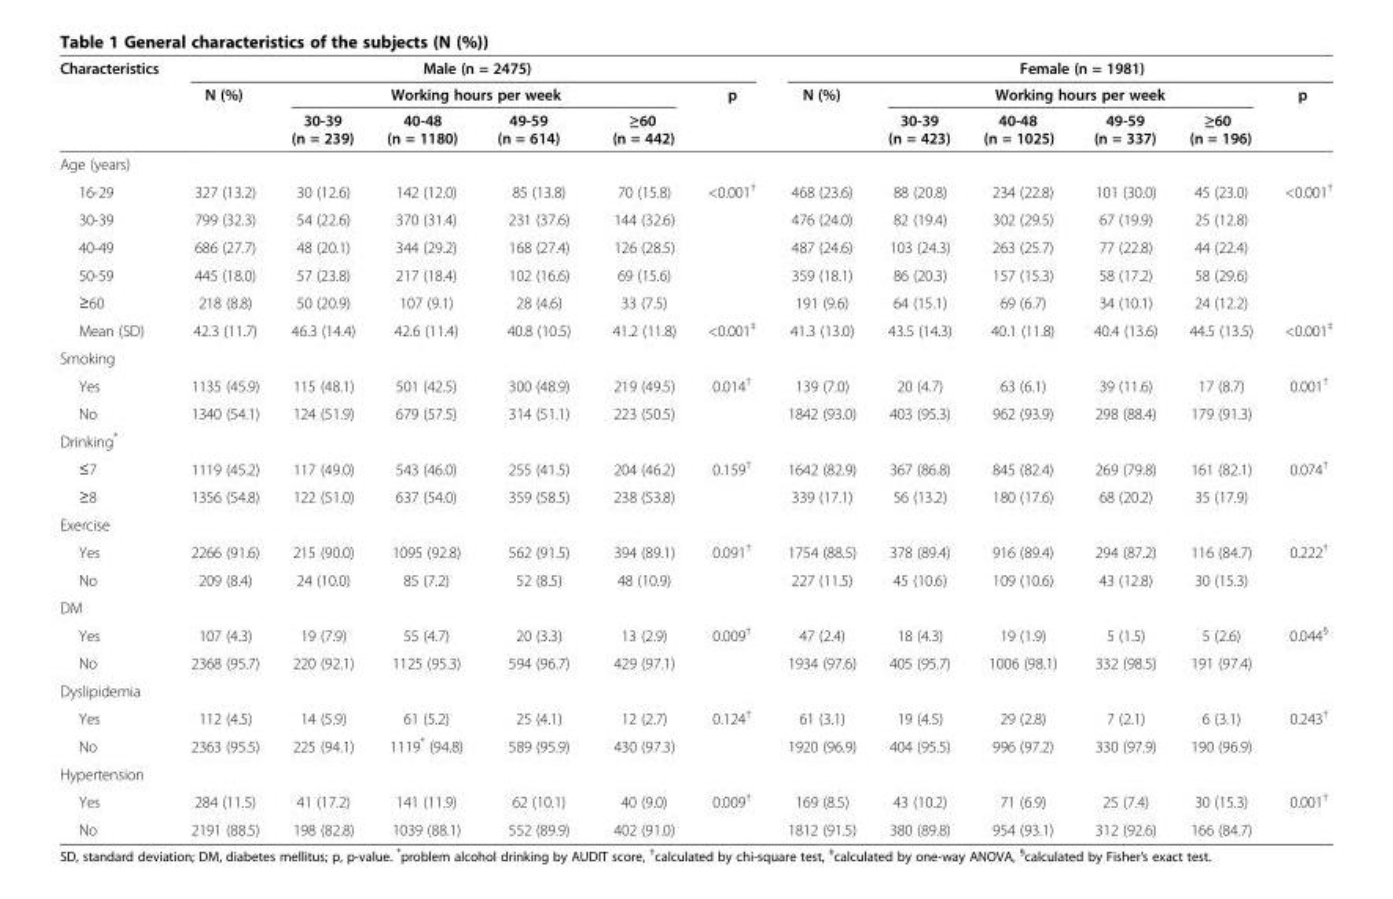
<table><thead><tr><td rowspan="3">Characteristics</td><td colspan="6">Male (n = 2475)</td><td colspan="6">Female (n = 1981)</td></tr><tr><td rowspan="2">N (%)</td><td colspan="4">Working hours per week</td><td rowspan="2">p</td><td rowspan="2">N (%)</td><td colspan="4">Working hours per week</td><td rowspan="2">p</td></tr><tr><td>30-39 (n = 239)</td><td>40-48 (n = 1180)</td><td>49-59 (n = 614)</td><td>≥60 (n = 442)</td><td>30-39 (n = 423)</td><td>40-48 (n = 1025)</td><td>49-59 (n = 337)</td><td>≥60 (n = 196)</td></tr></thead><tbody><tr><td colspan="13">Age (years)</td></tr><tr><td>16-29</td><td>327 (13.2)</td><td>30 (12.6)</td><td>142 (12.0)</td><td>85 (13.8)</td><td>70 (15.8)</td><td>&lt;0.001<sup>†</sup></td><td>468 (23.6)</td><td>88 (20.8)</td><td>234 (22.8)</td><td>101 (30.0)</td><td>45 (23.0)</td><td>&lt;0.001<sup>†</sup></td></tr><tr><td>30-39</td><td>799 (32.3)</td><td>54 (22.6)</td><td>370 (31.4)</td><td>231 (37.6)</td><td>144 (32.6)</td><td></td><td>476 (24.0)</td><td>82 (19.4)</td><td>302 (29.5)</td><td>67 (19.9)</td><td>25 (12.8)</td><td></td></tr><tr><td>40-49</td><td>686 (27.7)</td><td>48 (20.1)</td><td>344 (29.2)</td><td>168 (27.4)</td><td>126 (28.5)</td><td></td><td>487 (24.6)</td><td>103 (24.3)</td><td>263 (25.7)</td><td>77 (22.8)</td><td>44 (22.4)</td><td></td></tr><tr><td>50-59</td><td>445 (18.0)</td><td>57 (23.8)</td><td>217 (18.4)</td><td>102 (16.6)</td><td>69 (15.6)</td><td></td><td>359 (18.1)</td><td>86 (20.3)</td><td>157 (15.3)</td><td>58 (17.2)</td><td>58 (29.6)</td><td></td></tr><tr><td>≥60</td><td>218 (8.8)</td><td>50 (20.9)</td><td>107 (9.1)</td><td>28 (4.6)</td><td>33 (7.5)</td><td></td><td>191 (9.6)</td><td>64 (15.1)</td><td>69 (6.7)</td><td>34 (10.1)</td><td>24 (12.2)</td><td></td></tr><tr><td>Mean (SD)</td><td>42.3 (11.7)</td><td>46.3 (14.4)</td><td>42.6 (11.4)</td><td>40.8 (10.5)</td><td>41.2 (11.8)</td><td>&lt;0.001<sup>‡</sup></td><td>41.3 (13.0)</td><td>43.5 (14.3)</td><td>40.1 (11.8)</td><td>40.4 (13.6)</td><td>44.5 (13.5)</td><td>&lt;0.001<sup>‡</sup></td></tr><tr><td colspan="13">Smoking</td></tr><tr><td>Yes</td><td>1135 (45.9)</td><td>115 (48.1)</td><td>501 (42.5)</td><td>300 (48.9)</td><td>219 (49.5)</td><td>0.014<sup>†</sup></td><td>139 (7.0)</td><td>20 (4.7)</td><td>63 (6.1)</td><td>39 (11.6)</td><td>17 (8.7)</td><td>0.001<sup>†</sup></td></tr><tr><td>No</td><td>1340 (54.1)</td><td>124 (51.9)</td><td>679 (57.5)</td><td>314 (51.1)</td><td>223 (50.5)</td><td></td><td>1842 (93.0)</td><td>403 (95.3)</td><td>962 (93.9)</td><td>298 (88.4)</td><td>179 (91.3)</td><td></td></tr><tr><td colspan="13">Drinking*</td></tr><tr><td>≤7</td><td>1119 (45.2)</td><td>117 (49.0)</td><td>543 (46.0)</td><td>255 (41.5)</td><td>204 (46.2)</td><td>0.159<sup>†</sup></td><td>1642 (82.9)</td><td>367 (86.8)</td><td>845 (82.4)</td><td>269 (79.8)</td><td>161 (82.1)</td><td>0.074<sup>†</sup></td></tr><tr><td>≥8</td><td>1356 (54.8)</td><td>122 (51.0)</td><td>637 (54.0)</td><td>359 (58.5)</td><td>238 (53.8)</td><td></td><td>339 (17.1)</td><td>56 (13.2)</td><td>180 (17.6)</td><td>68 (20.2)</td><td>35 (17.9)</td><td></td></tr><tr><td colspan="13">Exercise</td></tr><tr><td>Yes</td><td>2266 (91.6)</td><td>215 (90.0)</td><td>1095 (92.8)</td><td>562 (91.5)</td><td>394 (89.1)</td><td>0.091<sup>†</sup></td><td>1754 (88.5)</td><td>378 (89.4)</td><td>916 (89.4)</td><td>294 (87.2)</td><td>116 (84.7)</td><td>0.222<sup>†</sup></td></tr><tr><td>No</td><td>209 (8.4)</td><td>24 (10.0)</td><td>85 (7.2)</td><td>52 (8.5)</td><td>48 (10.9)</td><td></td><td>227 (11.5)</td><td>45 (10.6)</td><td>109 (10.6)</td><td>43 (12.8)</td><td>30 (15.3)</td><td></td></tr><tr><td colspan="13">DM</td></tr><tr><td>Yes</td><td>107 (4.3)</td><td>19 (7.9)</td><td>55 (4.7)</td><td>20 (3.3)</td><td>13 (2.9)</td><td>0.009<sup>†</sup></td><td>47 (2.4)</td><td>18 (4.3)</td><td>19 (1.9)</td><td>5 (1.5)</td><td>5 (2.6)</td><td>0.044<sup>§</sup></td></tr><tr><td>No</td><td>2368 (95.7)</td><td>220 (92.1)</td><td>1125 (95.3)</td><td>594 (96.7)</td><td>429 (97.1)</td><td></td><td>1934 (97.6)</td><td>405 (95.7)</td><td>1006 (98.1)</td><td>332 (98.5)</td><td>191 (97.4)</td><td></td></tr><tr><td colspan="13">Dyslipidemia</td></tr><tr><td>Yes</td><td>112 (4.5)</td><td>14 (5.9)</td><td>61 (5.2)</td><td>25 (4.1)</td><td>12 (2.7)</td><td>0.124<sup>†</sup></td><td>61 (3.1)</td><td>19 (4.5)</td><td>29 (2.8)</td><td>7 (2.1)</td><td>6 (3.1)</td><td>0.243<sup>†</sup></td></tr><tr><td>No</td><td>2363 (95.5)</td><td>225 (94.1)</td><td>1119* (94.8)</td><td>589 (95.9)</td><td>430 (97.3)</td><td></td><td>1920 (96.9)</td><td>404 (95.5)</td><td>996 (97.2)</td><td>330 (97.9)</td><td>190 (96.9)</td><td></td></tr><tr><td colspan="13">Hypertension</td></tr><tr><td>Yes</td><td>284 (11.5)</td><td>41 (17.2)</td><td>141 (11.9)</td><td>62 (10.1)</td><td>40 (9.0)</td><td>0.009<sup>†</sup></td><td>169 (8.5)</td><td>43 (10.2)</td><td>71 (6.9)</td><td>25 (7.4)</td><td>30 (15.3)</td><td>0.001<sup>†</sup></td></tr><tr><td>No</td><td>2191 (88.5)</td><td>198 (82.8)</td><td>1039 (88.1)</td><td>552 (89.9)</td><td>402 (91.0)</td><td></td><td>1812 (91.5)</td><td>380 (89.8)</td><td>954 (93.1)</td><td>312 (92.6)</td><td>166 (84.7)</td><td></td></tr></tbody></table>